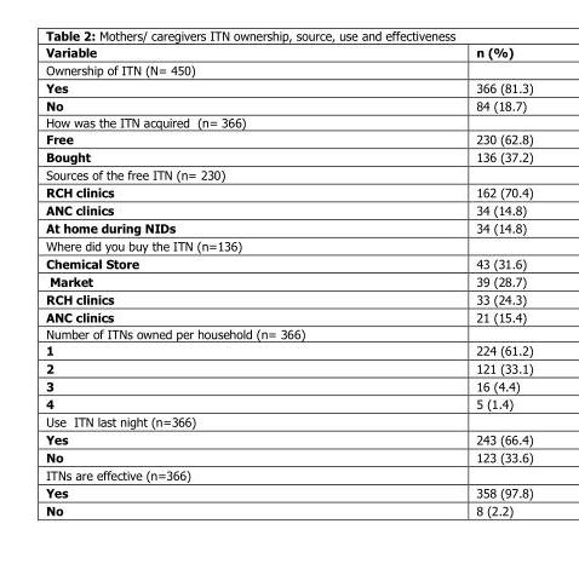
<table><thead><tr><td>Variable</td><td>n (%)</td></tr></thead><tbody><tr><td colspan="2">Ownership of ITN (N= 450)</td></tr><tr><td>Yes</td><td>366 (81.3)</td></tr><tr><td>No</td><td>84 (18.7)</td></tr><tr><td colspan="2">How was the ITN acquired (n= 366)</td></tr><tr><td>Free</td><td>230 (62.8)</td></tr><tr><td>Bought</td><td>136 (37.2)</td></tr><tr><td colspan="2">Sources of the free ITN (n= 230)</td></tr><tr><td>RCH clinics</td><td>162 (70.4)</td></tr><tr><td>ANC clinics</td><td>34 (14.8)</td></tr><tr><td>At home during NIDs</td><td>34 (14.8)</td></tr><tr><td colspan="2">Where did you buy the ITN (n=136)</td></tr><tr><td>Chemical Store</td><td>43 (31.6)</td></tr><tr><td>Market</td><td>39 (28.7)</td></tr><tr><td>RCH clinics</td><td>33 (24.3)</td></tr><tr><td>ANC clinics</td><td>21 (15.4)</td></tr><tr><td colspan="2">Number of ITNs owned per household (n= 366)</td></tr><tr><td>1</td><td>224 (61.2)</td></tr><tr><td>2</td><td>121 (33.1)</td></tr><tr><td>3</td><td>16 (4.4)</td></tr><tr><td>4</td><td>5 (1.4)</td></tr><tr><td colspan="2">Use ITN last night (n=366)</td></tr><tr><td>Yes</td><td>243 (66.4)</td></tr><tr><td>No</td><td>123 (33.6)</td></tr><tr><td colspan="2">ITNs are effective (n=366)</td></tr><tr><td>Yes</td><td>358 (97.8)</td></tr><tr><td>No</td><td>8 (2.2)</td></tr></tbody></table>